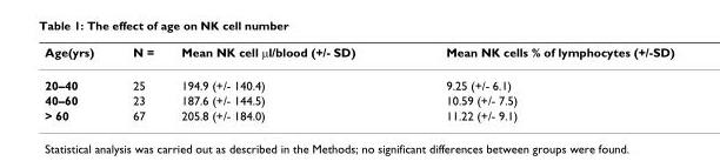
<table><thead><tr><td>Age(yrs)</td><td>N =</td><td>Mean NK cell µl/blood (+/- SD)</td><td>Mean NK cells % of lymphocytes (+/-SD)</td></tr></thead><tbody><tr><td>20–40</td><td>25</td><td>194.9 (+/- 140.4)</td><td>9.25 (+/- 6.1)</td></tr><tr><td>40–60</td><td>23</td><td>187.6 (+/- 144.5)</td><td>10.59 (+/- 7.5)</td></tr><tr><td>&gt; 60</td><td>67</td><td>205.8 (+/- 184.0)</td><td>11.22 (+/- 9.1)</td></tr></tbody></table>